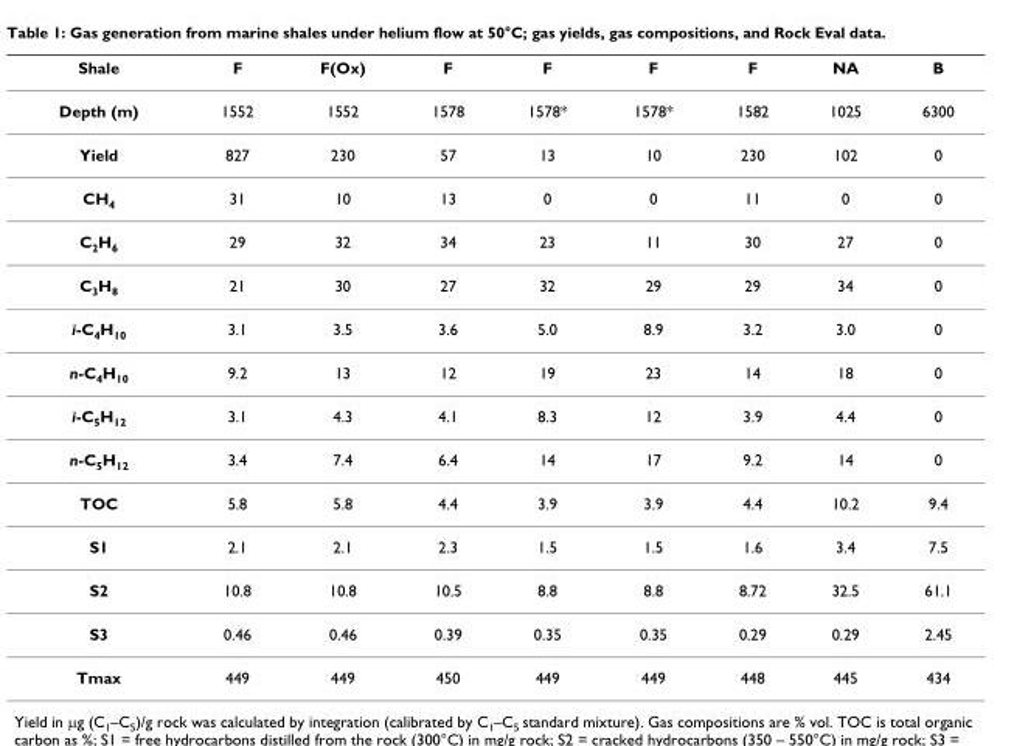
<table><thead><tr><td>Shale</td><td>F</td><td>F(Ox)</td><td>F</td><td>F</td><td>F</td><td>F</td><td>NA</td><td>B</td></tr></thead><tbody><tr><td>Depth (m)</td><td>1552</td><td>1552</td><td>1578</td><td>1578*</td><td>1578*</td><td>1582</td><td>1025</td><td>6300</td></tr><tr><td>Yield</td><td>827</td><td>230</td><td>57</td><td>13</td><td>10</td><td>230</td><td>102</td><td>0</td></tr><tr><td>CH<sub>4</sub></td><td>31</td><td>10</td><td>13</td><td>0</td><td>0</td><td>11</td><td>0</td><td>0</td></tr><tr><td>C<sub>2</sub>H<sub>6</sub></td><td>29</td><td>32</td><td>34</td><td>23</td><td>11</td><td>30</td><td>27</td><td>0</td></tr><tr><td>C<sub>3</sub>H<sub>8</sub></td><td>21</td><td>30</td><td>27</td><td>32</td><td>29</td><td>29</td><td>34</td><td>0</td></tr><tr><td>i-C<sub>4</sub>H<sub>10</sub></td><td>3.1</td><td>3.5</td><td>3.6</td><td>5.0</td><td>8.9</td><td>3.2</td><td>3.0</td><td>0</td></tr><tr><td>n-C<sub>4</sub>H<sub>10</sub></td><td>9.2</td><td>13</td><td>12</td><td>19</td><td>23</td><td>14</td><td>18</td><td>0</td></tr><tr><td>i-C<sub>5</sub>H<sub>12</sub></td><td>3.1</td><td>4.3</td><td>4.1</td><td>8.3</td><td>12</td><td>3.9</td><td>4.4</td><td>0</td></tr><tr><td>n-C<sub>5</sub>H<sub>12</sub></td><td>3.4</td><td>7.4</td><td>6.4</td><td>14</td><td>17</td><td>9.2</td><td>14</td><td>0</td></tr><tr><td>TOC</td><td>5.8</td><td>5.8</td><td>4.4</td><td>3.9</td><td>3.9</td><td>4.4</td><td>10.2</td><td>9.4</td></tr><tr><td>S1</td><td>2.1</td><td>2.1</td><td>2.3</td><td>1.5</td><td>1.5</td><td>1.6</td><td>3.4</td><td>7.5</td></tr><tr><td>S2</td><td>10.8</td><td>10.8</td><td>10.5</td><td>8.8</td><td>8.8</td><td>8.72</td><td>32.5</td><td>61.1</td></tr><tr><td>S3</td><td>0.46</td><td>0.46</td><td>0.39</td><td>0.35</td><td>0.35</td><td>0.29</td><td>0.29</td><td>2.45</td></tr><tr><td>Tmax</td><td>449</td><td>449</td><td>450</td><td>449</td><td>449</td><td>448</td><td>445</td><td>434</td></tr></tbody></table>